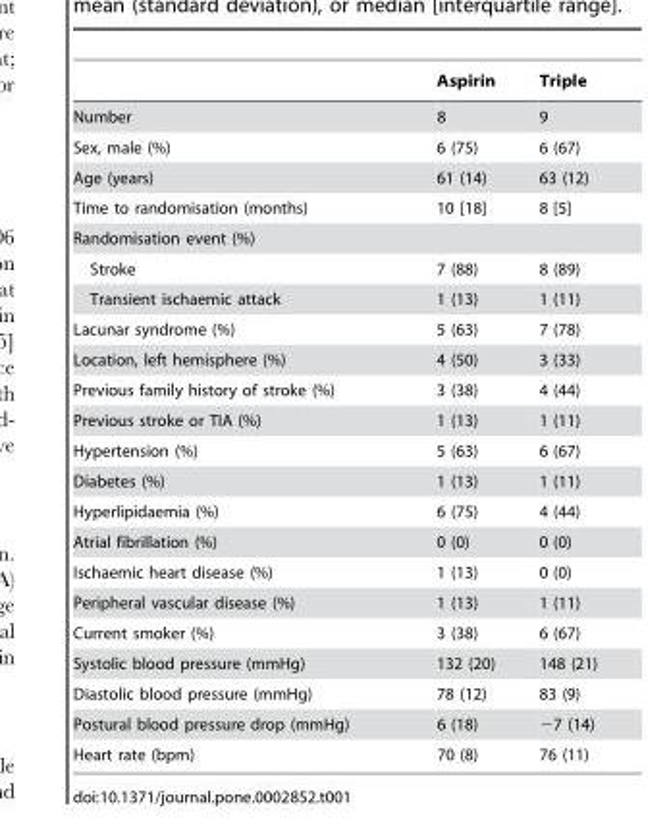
<table><thead><tr><td></td><td>Aspirin</td><td>Triple</td></tr></thead><tbody><tr><td>Number</td><td>8</td><td>9</td></tr><tr><td>Sex, male (%)</td><td>6 (75)</td><td>6 (67)</td></tr><tr><td>Age (years)</td><td>61 (14)</td><td>63 (12)</td></tr><tr><td>Time to randomisation (months)</td><td>10 [18]</td><td>8 [5]</td></tr><tr><td colspan="3">Randomisation event (%)</td></tr><tr><td>Stroke</td><td>7 (88)</td><td>8 (89)</td></tr><tr><td>Transient ischaemic attack</td><td>1 (13)</td><td>1 (11)</td></tr><tr><td>Lacunar syndrome (%)</td><td>5 (63)</td><td>7 (78)</td></tr><tr><td>Location, left hemisphere (%)</td><td>4 (50)</td><td>3 (33)</td></tr><tr><td>Previous family history of stroke (%)</td><td>3 (38)</td><td>4 (44)</td></tr><tr><td>Previous stroke or TIA (%)</td><td>1 (13)</td><td>1 (11)</td></tr><tr><td>Hypertension (%)</td><td>5 (63)</td><td>6 (67)</td></tr><tr><td>Diabetes (%)</td><td>1 (13)</td><td>1 (11)</td></tr><tr><td>Hyperlipidaemia (%)</td><td>6 (75)</td><td>4 (44)</td></tr><tr><td>Atrial fibrillation (%)</td><td>0 (0)</td><td>0 (0)</td></tr><tr><td>Ischaemic heart disease (%)</td><td>1 (13)</td><td>0 (0)</td></tr><tr><td>Peripheral vascular disease (%)</td><td>1 (13)</td><td>1 (11)</td></tr><tr><td>Current smoker (%)</td><td>3 (38)</td><td>6 (67)</td></tr><tr><td>Systolic blood pressure (mmHg)</td><td>132 (20)</td><td>148 (21)</td></tr><tr><td>Diastolic blood pressure (mmHg)</td><td>78 (12)</td><td>83 (9)</td></tr><tr><td>Postural blood pressure drop (mmHg)</td><td>6 (18)</td><td>−7 (14)</td></tr><tr><td>Heart rate (bpm)</td><td>70 (8)</td><td>76 (11)</td></tr></tbody></table>